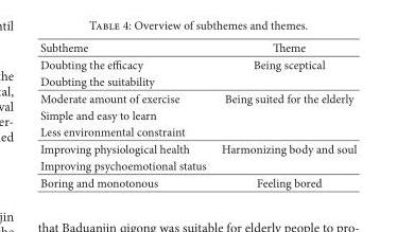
<table><thead><tr><td>Subtheme</td><td>Theme</td></tr></thead><tbody><tr><td>Doubting the efficacy</td><td>Being sceptical</td></tr><tr><td colspan="2">Doubting the suitability</td></tr><tr><td>Moderate amount of exercise</td><td>Being suited for the elderly</td></tr><tr><td colspan="2">Simple and easy to learn</td></tr><tr><td colspan="2">Less environmental constraint</td></tr><tr><td>Improving physiological health</td><td>Harmonizing body and soul</td></tr><tr><td colspan="2">Improving psychoemotional status</td></tr><tr><td>Boring and monotonous</td><td>Feeling bored</td></tr></tbody></table>